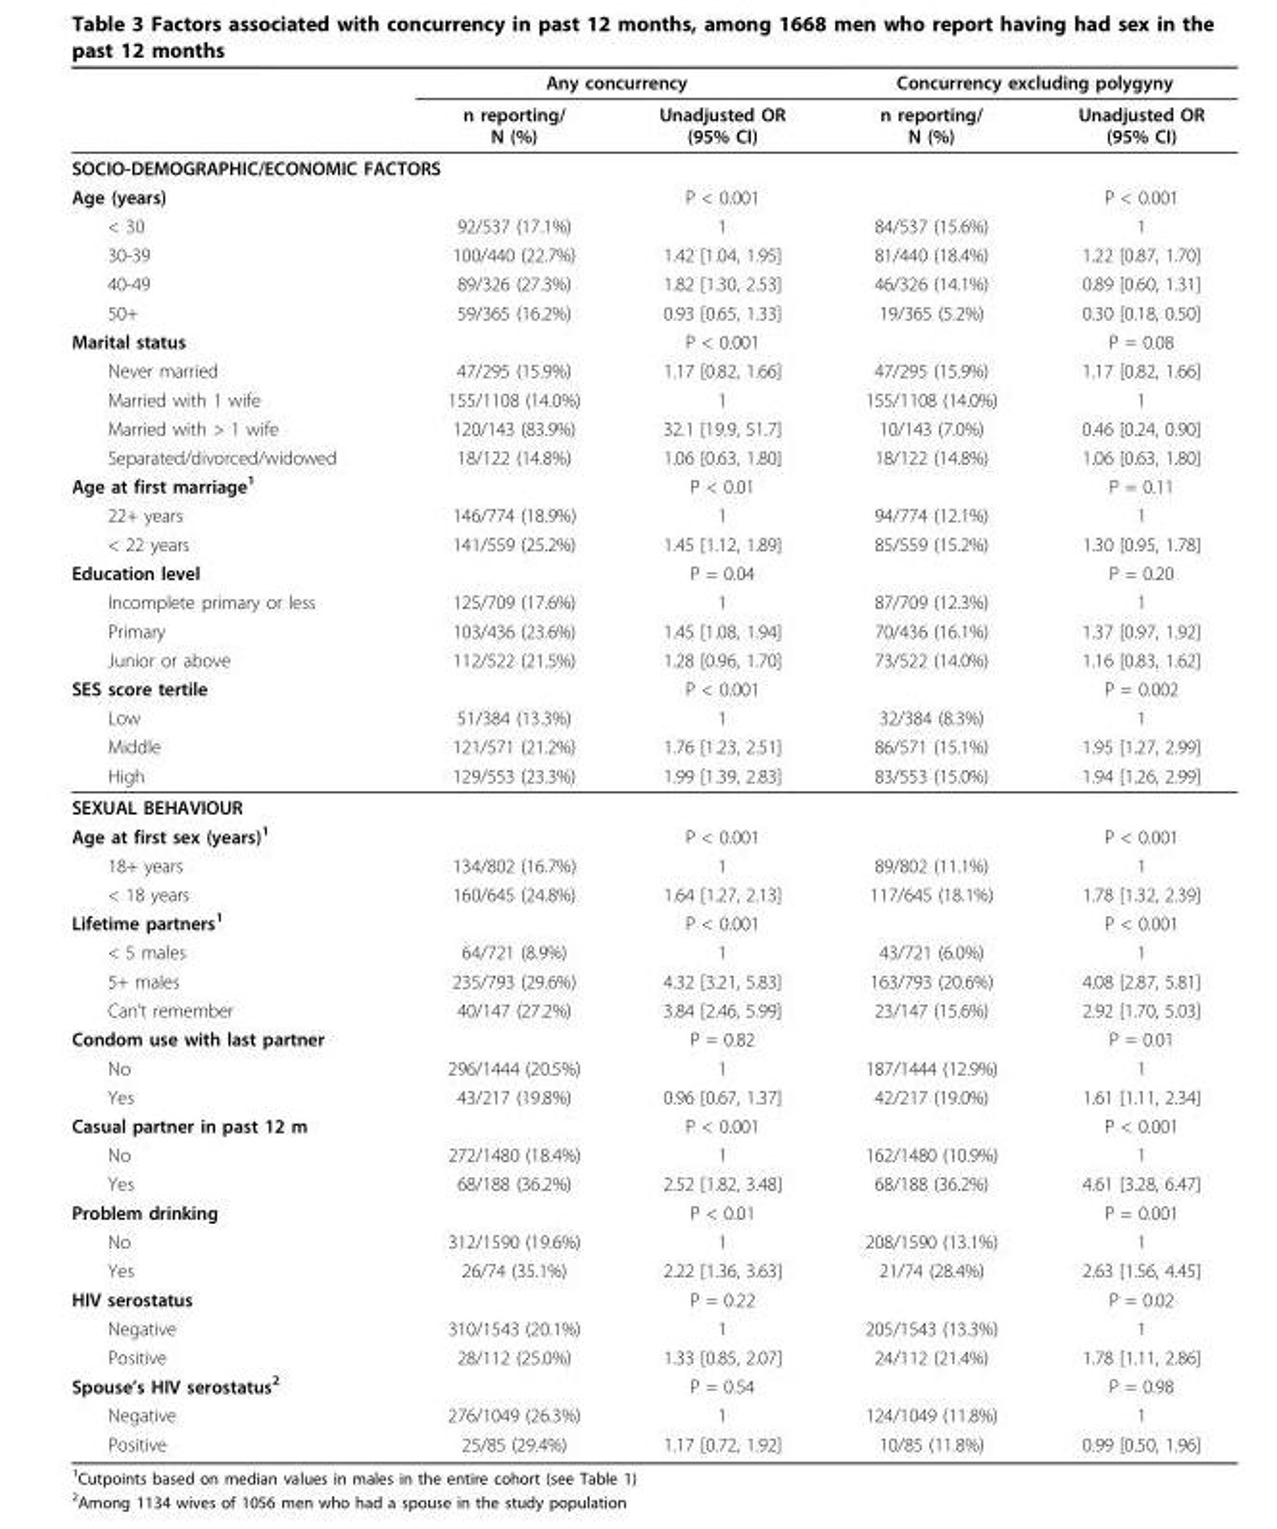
<table><thead><tr><td rowspan="2"></td><td colspan="2">Any concurrency</td><td colspan="2">Concurrency excluding polygyny</td></tr><tr><td>n reporting/ N (%)</td><td>Unadjusted OR (95% CI)</td><td>n reporting/ N (%)</td><td>Unadjusted OR (95% CI)</td></tr></thead><tbody><tr><td colspan="5">SOCIO-DEMOGRAPHIC/ECONOMIC FACTORS</td></tr><tr><td>Age (years)</td><td></td><td>P &lt; 0.001</td><td></td><td>P &lt; 0.001</td></tr><tr><td>&lt; 30</td><td>92/537 (17.1%)</td><td>1</td><td>84/537 (15.6%)</td><td>1</td></tr><tr><td>30-39</td><td>100/440 (22.7%)</td><td>1.42 [1.04, 1.95]</td><td>81/440 (18.4%)</td><td>1.22 [0.87, 1.70]</td></tr><tr><td>40-49</td><td>89/326 (27.3%)</td><td>1.82 [1.30, 2.53]</td><td>46/326 (14.1%)</td><td>0.89 [0.60, 1.31]</td></tr><tr><td>50+</td><td>59/365 (16.2%)</td><td>0.93 [0.65, 1.33]</td><td>19/365 (5.2%)</td><td>0.30 [0.18, 0.50]</td></tr><tr><td>Marital status</td><td></td><td>P &lt; 0.001</td><td></td><td>P = 0.08</td></tr><tr><td>Never married</td><td>47/295 (15.9%)</td><td>1.17 [0.82, 1.66]</td><td>47/295 (15.9%)</td><td>1.17 [0.82, 1.66]</td></tr><tr><td>Married with 1 wife</td><td>155/1108 (14.0%)</td><td>1</td><td>155/1108 (14.0%)</td><td>1</td></tr><tr><td>Married with &gt; 1 wife</td><td>120/143 (83.9%)</td><td>32.1 [19.9, 51.7]</td><td>10/143 (7.0%)</td><td>0.46 [0.24, 0.90]</td></tr><tr><td>Separated/divorced/widowed</td><td>18/122 (14.8%)</td><td>1.06 [0.63, 1.80]</td><td>18/122 (14.8%)</td><td>1.06 [0.63, 1.80]</td></tr><tr><td>Age at first marriage<sup>1</sup></td><td></td><td>P &lt; 0.01</td><td></td><td>P = 0.11</td></tr><tr><td>22+ years</td><td>146/774 (18.9%)</td><td>1</td><td>94/774 (12.1%)</td><td>1</td></tr><tr><td>&lt; 22 years</td><td>141/559 (25.2%)</td><td>1.45 [1.12, 1.89]</td><td>85/559 (15.2%)</td><td>1.30 [0.95, 1.78]</td></tr><tr><td>Education level</td><td></td><td>P = 0.04</td><td></td><td>P = 0.20</td></tr><tr><td>Incomplete primary or less</td><td>125/709 (17.6%)</td><td>1</td><td>87/709 (12.3%)</td><td>1</td></tr><tr><td>Primary</td><td>103/436 (23.6%)</td><td>1.45 [1.08, 1.94]</td><td>70/436 (16.1%)</td><td>1.37 [0.97, 1.92]</td></tr><tr><td>Junior or above</td><td>112/522 (21.5%)</td><td>1.28 [0.96, 1.70]</td><td>73/522 (14.0%)</td><td>1.16 [0.83, 1.62]</td></tr><tr><td>SES score tertile</td><td></td><td>P &lt; 0.001</td><td></td><td>P = 0.002</td></tr><tr><td>Low</td><td>51/384 (13.3%)</td><td>1</td><td>32/384 (8.3%)</td><td>1</td></tr><tr><td>Middle</td><td>121/571 (21.2%)</td><td>1.76 [1.23, 2.51]</td><td>86/571 (15.1%)</td><td>1.95 [1.27, 2.99]</td></tr><tr><td>High</td><td>129/553 (23.3%)</td><td>1.99 [1.39, 2.83]</td><td>83/553 (15.0%)</td><td>1.94 [1.26, 2.99]</td></tr><tr><td colspan="5">SEXUAL BEHAVIOUR</td></tr><tr><td>Age at first sex (years)<sup>1</sup></td><td></td><td>P &lt; 0.001</td><td></td><td>P &lt; 0.001</td></tr><tr><td>18+ years</td><td>134/802 (16.7%)</td><td>1</td><td>89/802 (11.1%)</td><td>1</td></tr><tr><td>&lt; 18 years</td><td>160/645 (24.8%)</td><td>1.64 [1.27, 2.13]</td><td>117/645 (18.1%)</td><td>1.78 [1.32, 2.39]</td></tr><tr><td>Lifetime partners<sup>1</sup></td><td></td><td>P &lt; 0.001</td><td></td><td>P &lt; 0.001</td></tr><tr><td>&lt; 5 males</td><td>64/721 (8.9%)</td><td>1</td><td>43/721 (6.0%)</td><td>1</td></tr><tr><td>5+ males</td><td>235/793 (29.6%)</td><td>4.32 [3.21, 5.83]</td><td>163/793 (20.6%)</td><td>4.08 [2.87, 5.81]</td></tr><tr><td>Can’t remember</td><td>40/147 (27.2%)</td><td>3.84 [2.46, 5.99]</td><td>23/147 (15.6%)</td><td>2.92 [1.70, 5.03]</td></tr><tr><td>Condom use with last partner</td><td></td><td>P = 0.82</td><td></td><td>P = 0.01</td></tr><tr><td>No</td><td>296/1444 (20.5%)</td><td>1</td><td>187/1444 (12.9%)</td><td>1</td></tr><tr><td>Yes</td><td>43/217 (19.8%)</td><td>0.96 [0.67, 1.37]</td><td>42/217 (19.0%)</td><td>1.61 [1.11, 2.34]</td></tr><tr><td>Casual partner in past 12 m</td><td></td><td>P &lt; 0.001</td><td></td><td>P &lt; 0.001</td></tr><tr><td>No</td><td>272/1480 (18.4%)</td><td>1</td><td>162/1480 (10.9%)</td><td>1</td></tr><tr><td>Yes</td><td>68/188 (36.2%)</td><td>2.52 [1.82, 3.48]</td><td>68/188 (36.2%)</td><td>4.61 [3.28, 6.47]</td></tr><tr><td>Problem drinking</td><td></td><td>P &lt; 0.01</td><td></td><td>P = 0.001</td></tr><tr><td>No</td><td>312/1590 (19.6%)</td><td>1</td><td>208/1590 (13.1%)</td><td>1</td></tr><tr><td>Yes</td><td>26/74 (35.1%)</td><td>2.22 [1.36, 3.63]</td><td>21/74 (28.4%)</td><td>2.63 [1.56, 4.45]</td></tr><tr><td>HIV serostatus</td><td></td><td>P = 0.22</td><td></td><td>P = 0.02</td></tr><tr><td>Negative</td><td>310/1543 (20.1%)</td><td>1</td><td>205/1543 (13.3%)</td><td>1</td></tr><tr><td>Positive</td><td>28/112 (25.0%)</td><td>1.33 [0.85, 2.07]</td><td>24/112 (21.4%)</td><td>1.78 [1.11, 2.86]</td></tr><tr><td>Spouse’s HIV serostatus<sup>2</sup></td><td></td><td>P = 0.54</td><td></td><td>P = 0.98</td></tr><tr><td>Negative</td><td>276/1049 (26.3%)</td><td>1</td><td>124/1049 (11.8%)</td><td>1</td></tr><tr><td>Positive</td><td>25/85 (29.4%)</td><td>1.17 [0.72, 1.92]</td><td>10/85 (11.8%)</td><td>0.99 [0.50, 1.96]</td></tr></tbody></table>